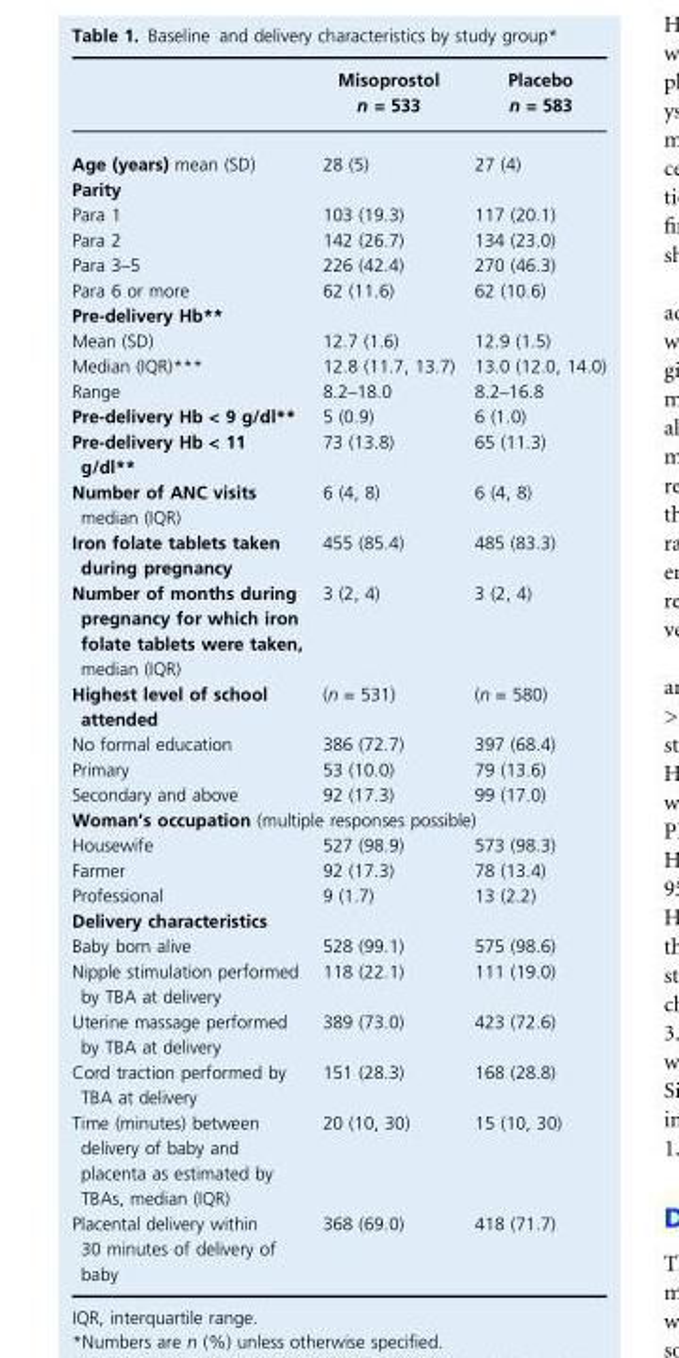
<table><thead><tr><td></td><td>Misoprostol n = 533</td><td>Placebo n = 583</td></tr></thead><tbody><tr><td>Age (years) mean (SD)</td><td>28 (5)</td><td>27 (4)</td></tr><tr><td colspan="3">Parity</td></tr><tr><td>Para 1</td><td>103 (19.3)</td><td>117 (20.1)</td></tr><tr><td>Para 2</td><td>142 (26.7)</td><td>134 (23.0)</td></tr><tr><td>Para 3–5</td><td>226 (42.4)</td><td>270 (46.3)</td></tr><tr><td>Para 6 or more</td><td>62 (11.6)</td><td>62 (10.6)</td></tr><tr><td colspan="3">Pre-delivery Hb**</td></tr><tr><td>Mean (SD)</td><td>12.7 (1.6)</td><td>12.9 (1.5)</td></tr><tr><td>Median (IQR)***</td><td>12.8 (11.7, 13.7)</td><td>13.0 (12.0, 14.0)</td></tr><tr><td>Range</td><td>8.2–18.0</td><td>8.2–16.8</td></tr><tr><td>Pre-delivery Hb &lt; 9 g/dl**</td><td>5 (0.9)</td><td>6 (1.0)</td></tr><tr><td>Pre-delivery Hb &lt; 11 g/dl**</td><td>73 (13.8)</td><td>65 (11.3)</td></tr><tr><td>Number of ANC visits median (IQR)</td><td>6 (4, 8)</td><td>6 (4, 8)</td></tr><tr><td>Iron folate tablets taken during pregnancy</td><td>455 (85.4)</td><td>485 (83.3)</td></tr><tr><td>Number of months during pregnancy for which iron folate tablets were taken, median (IQR)</td><td>3 (2, 4)</td><td>3 (2, 4)</td></tr><tr><td>Highest level of school attended</td><td>(n = 531)</td><td>(n = 580)</td></tr><tr><td>No formal education</td><td>386 (72.7)</td><td>397 (68.4)</td></tr><tr><td>Primary</td><td>53 (10.0)</td><td>79 (13.6)</td></tr><tr><td>Secondary and above</td><td>92 (17.3)</td><td>99 (17.0)</td></tr><tr><td colspan="3">Woman’s occupation (multiple responses possible)</td></tr><tr><td>Housewife</td><td>527 (98.9)</td><td>573 (98.3)</td></tr><tr><td>Farmer</td><td>92 (17.3)</td><td>78 (13.4)</td></tr><tr><td>Professional</td><td>9 (1.7)</td><td>13 (2.2)</td></tr><tr><td colspan="3">Delivery characteristics</td></tr><tr><td>Baby born alive</td><td>528 (99.1)</td><td>575 (98.6)</td></tr><tr><td>Nipple stimulation performed by TBA at delivery</td><td>118 (22.1)</td><td>111 (19.0)</td></tr><tr><td>Uterine massage performed by TBA at delivery</td><td>389 (73.0)</td><td>423 (72.6)</td></tr><tr><td>Cord traction performed by TBA at delivery</td><td>151 (28.3)</td><td>168 (28.8)</td></tr><tr><td>Time (minutes) between delivery of baby and placenta as estimated by TBAs, median (IQR)</td><td>20 (10, 30)</td><td>15 (10, 30)</td></tr><tr><td>Placental delivery within 30 minutes of delivery of baby</td><td>368 (69.0)</td><td>418 (71.7)</td></tr></tbody></table>